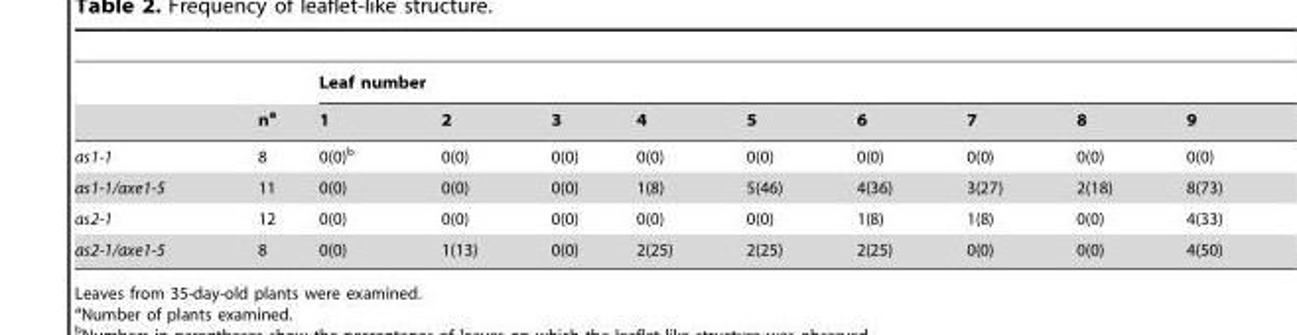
<table><thead><tr><td rowspan="2"></td><td rowspan="2">n<sup>a</sup></td><td colspan="9">Leaf number</td></tr><tr><td>1</td><td>2</td><td>3</td><td>4</td><td>5</td><td>6</td><td>7</td><td>8</td><td>9</td></tr></thead><tbody><tr><td>as1-1</td><td>8</td><td>0(0)<sup>b</sup></td><td>0(0)</td><td>0(0)</td><td>0(0)</td><td>0(0)</td><td>0(0)</td><td>0(0)</td><td>0(0)</td><td>0(0)</td></tr><tr><td>as1-1/axe1-5</td><td>11</td><td>0(0)</td><td>0(0)</td><td>0(0)</td><td>1(8)</td><td>5(46)</td><td>4(36)</td><td>3(27)</td><td>2(18)</td><td>8(73)</td></tr><tr><td>as2-1</td><td>12</td><td>0(0)</td><td>0(0)</td><td>0(0)</td><td>0(0)</td><td>0(0)</td><td>1(8)</td><td>1(8)</td><td>0(0)</td><td>4(33)</td></tr><tr><td>as2-1/axe1-5</td><td>8</td><td>0(0)</td><td>1(13)</td><td>0(0)</td><td>2(25)</td><td>2(25)</td><td>2(25)</td><td>0(0)</td><td>0(0)</td><td>4(50)</td></tr></tbody></table>